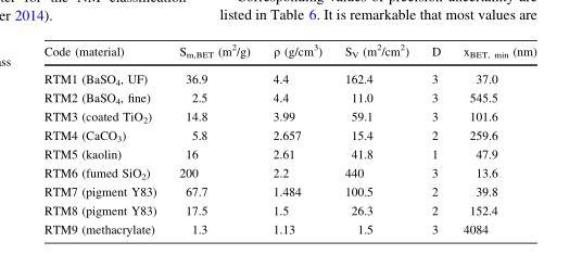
<table><thead><tr><td>Code (material)</td><td>S<sub>m,BET</sub> (m<sup>2</sup>/g)</td><td>ρ (g/cm<sup>3</sup>)</td><td>S<sub>V</sub> (m<sup>2</sup>/cm<sup>2</sup>)</td><td>D</td><td>x<sub>BET, min</sub> (nm)</td></tr></thead><tbody><tr><td>RTM1 (BaSO<sub>4</sub>, UF)</td><td>36.9</td><td>4.4</td><td>162.4</td><td>3</td><td>37.0</td></tr><tr><td>RTM2 (BaSO<sub>4</sub>, fine)</td><td>2.5</td><td>4.4</td><td>11.0</td><td>3</td><td>545.5</td></tr><tr><td>RTM3 (coated TiO<sub>2</sub>)</td><td>14.8</td><td>3.99</td><td>59.1</td><td>3</td><td>101.6</td></tr><tr><td>RTM4 (CaCO<sub>3</sub>)</td><td>5.8</td><td>2.657</td><td>15.4</td><td>2</td><td>259.6</td></tr><tr><td>RTM5 (kaolin)</td><td>16</td><td>2.61</td><td>41.8</td><td>1</td><td>47.9</td></tr><tr><td>RTM6 (fumed SiO<sub>2</sub>)</td><td>200</td><td>2.2</td><td>440</td><td>3</td><td>13.6</td></tr><tr><td>RTM7 (pigment Y83)</td><td>67.7</td><td>1.484</td><td>100.5</td><td>2</td><td>39.8</td></tr><tr><td>RTM8 (pigment Y83)</td><td>17.5</td><td>1.5</td><td>26.3</td><td>2</td><td>152.4</td></tr><tr><td>RTM9 (methacrylate)</td><td>1.3</td><td>1.13</td><td>1.5</td><td>3</td><td>4084</td></tr></tbody></table>